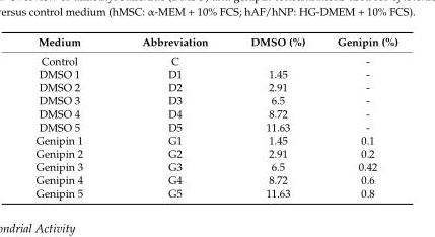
<table><thead><tr><td>Medium</td><td>Abbreviation</td><td>DMSO (%)</td><td>Genipin (%)</td></tr></thead><tbody><tr><td>Control</td><td>C</td><td></td><td>-</td></tr><tr><td>DMSO 1</td><td>D1</td><td>1.45</td><td>-</td></tr><tr><td>DMSO 2</td><td>D2</td><td>2.91</td><td>-</td></tr><tr><td>DMSO 3</td><td>D3</td><td>6.5</td><td>-</td></tr><tr><td>DMSO 4</td><td>D4</td><td>8.72</td><td>-</td></tr><tr><td>DMSO 5</td><td>D5</td><td>11.63</td><td>-</td></tr><tr><td>Genipin 1</td><td>G1</td><td>1.45</td><td>0.1</td></tr><tr><td>Genipin 2</td><td>G2</td><td>2.91</td><td>0.2</td></tr><tr><td>Genipin 3</td><td>G3</td><td>6.5</td><td>0.42</td></tr><tr><td>Genipin 4</td><td>G4</td><td>8.72</td><td>0.6</td></tr><tr><td>Genipin 5</td><td>G5</td><td>11.63</td><td>0.8</td></tr></tbody></table>